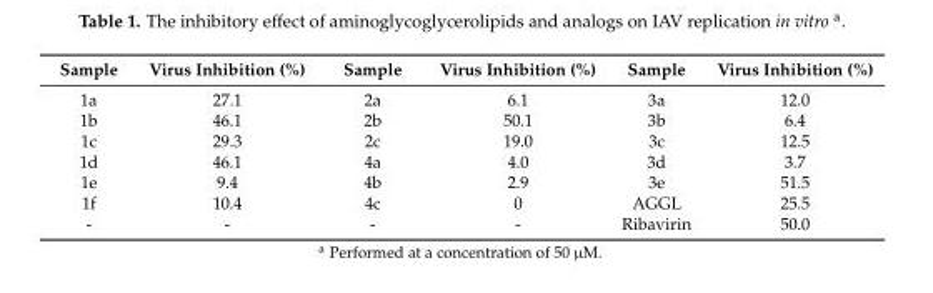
<table><thead><tr><td>Sample</td><td>Virus Inhibition (%)</td><td>Sample</td><td>Virus Inhibition (%)</td><td>Sample</td><td>Virus Inhibition (%)</td></tr></thead><tbody><tr><td>1a</td><td>27.1</td><td>2a</td><td>6.1</td><td>3a</td><td>12.0</td></tr><tr><td>1b</td><td>46.1</td><td>2b</td><td>50.1</td><td>3b</td><td>6.4</td></tr><tr><td>1c</td><td>29.3</td><td>2c</td><td>19.0</td><td>3c</td><td>12.5</td></tr><tr><td>1d</td><td>46.1</td><td>4a</td><td>4.0</td><td>3d</td><td>3.7</td></tr><tr><td>1e</td><td>9.4</td><td>4b</td><td>2.9</td><td>3e</td><td>51.5</td></tr><tr><td>1f</td><td>10.4</td><td>4c</td><td>0</td><td>AGGL</td><td>25.5</td></tr><tr><td>-</td><td>-</td><td>-</td><td>-</td><td>Ribavirin</td><td>50.0</td></tr></tbody></table>